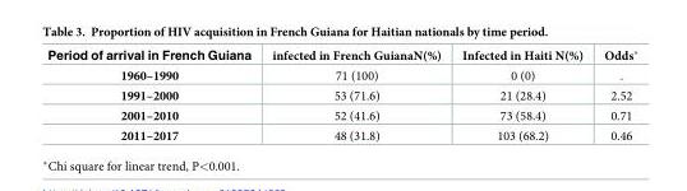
<table><thead><tr><td>Period of arrival in French Guiana</td><td>infected in French GuianaN(%)</td><td>Infected in Haiti N(%)</td><td>Odds*</td></tr></thead><tbody><tr><td>1960–1990</td><td>71 (100)</td><td>0 (0)</td><td>.</td></tr><tr><td>1991–2000</td><td>53 (71.6)</td><td>21 (28.4)</td><td>2.52</td></tr><tr><td>2001–2010</td><td>52 (41.6)</td><td>73 (58.4)</td><td>0.71</td></tr><tr><td>2011–2017</td><td>48 (31.8)</td><td>103 (68.2)</td><td>0.46</td></tr></tbody></table>